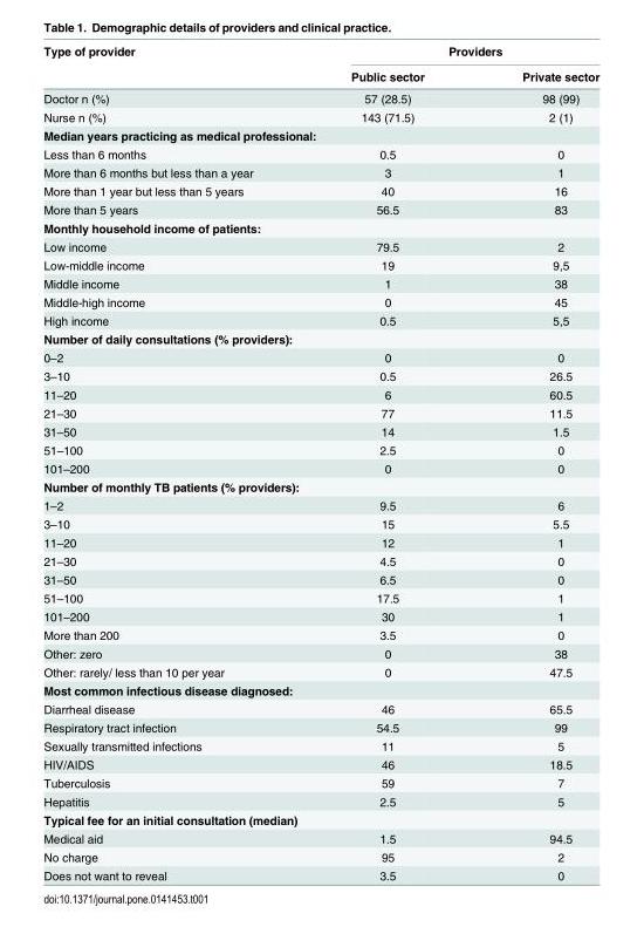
<table><thead><tr><td rowspan="2">Type of provider</td><td colspan="2">Providers</td></tr><tr><td>Public sector</td><td>Private sector</td></tr></thead><tbody><tr><td>Doctor n (%)</td><td>57 (28.5)</td><td>98 (99)</td></tr><tr><td>Nurse n (%)</td><td>143 (71.5)</td><td>2 (1)</td></tr><tr><td colspan="3">Median years practicing as medical professional:</td></tr><tr><td>Less than 6 months</td><td>0.5</td><td>0</td></tr><tr><td>More than 6 months but less than a year</td><td>3</td><td>1</td></tr><tr><td>More than 1 year but less than 5 years</td><td>40</td><td>16</td></tr><tr><td>More than 5 years</td><td>56.5</td><td>83</td></tr><tr><td colspan="3">Monthly household income of patients:</td></tr><tr><td>Low income</td><td>79.5</td><td>2</td></tr><tr><td>Low-middle income</td><td>19</td><td>9,5</td></tr><tr><td>Middle income</td><td>1</td><td>38</td></tr><tr><td>Middle-high income</td><td>0</td><td>45</td></tr><tr><td>High income</td><td>0.5</td><td>5,5</td></tr><tr><td colspan="3">Number of daily consultations (% providers):</td></tr><tr><td>0–2</td><td>0</td><td>0</td></tr><tr><td>3–10</td><td>0.5</td><td>26.5</td></tr><tr><td>11–20</td><td>6</td><td>60.5</td></tr><tr><td>21–30</td><td>77</td><td>11.5</td></tr><tr><td>31–50</td><td>14</td><td>1.5</td></tr><tr><td>51–100</td><td>2.5</td><td>0</td></tr><tr><td>101–200</td><td>0</td><td>0</td></tr><tr><td colspan="3">Number of monthly TB patients (% providers):</td></tr><tr><td>1–2</td><td>9.5</td><td>6</td></tr><tr><td>3–10</td><td>15</td><td>5.5</td></tr><tr><td>11–20</td><td>12</td><td>1</td></tr><tr><td>21–30</td><td>4.5</td><td>0</td></tr><tr><td>31–50</td><td>6.5</td><td>0</td></tr><tr><td>51–100</td><td>17.5</td><td>1</td></tr><tr><td>101–200</td><td>30</td><td>1</td></tr><tr><td>More than 200</td><td>3.5</td><td>0</td></tr><tr><td>Other: zero</td><td>0</td><td>38</td></tr><tr><td>Other: rarely/ less than 10 per year</td><td>0</td><td>47.5</td></tr><tr><td colspan="3">Most common infectious disease diagnosed:</td></tr><tr><td>Diarrheal disease</td><td>46</td><td>65.5</td></tr><tr><td>Respiratory tract infection</td><td>54.5</td><td>99</td></tr><tr><td>Sexually transmitted infections</td><td>11</td><td>5</td></tr><tr><td>HIV/AIDS</td><td>46</td><td>18.5</td></tr><tr><td>Tuberculosis</td><td>59</td><td>7</td></tr><tr><td>Hepatitis</td><td>2.5</td><td>5</td></tr><tr><td colspan="3">Typical fee for an initial consultation (median)</td></tr><tr><td>Medical aid</td><td>1.5</td><td>94.5</td></tr><tr><td>No charge</td><td>95</td><td>2</td></tr><tr><td>Does not want to reveal</td><td>3.5</td><td>0</td></tr></tbody></table>